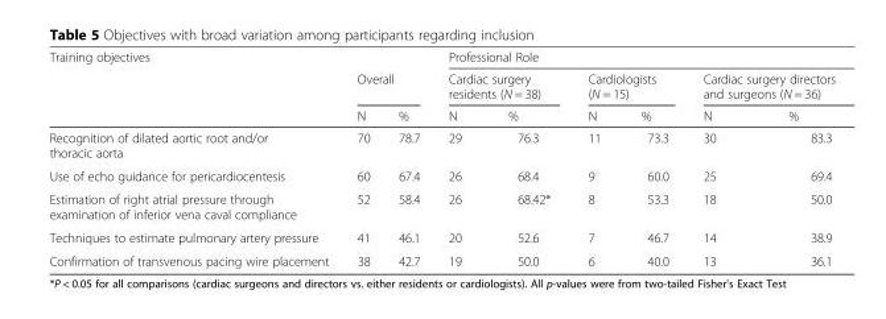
<table><thead><tr><td rowspan="3">Training objectives</td><td></td><td></td><td colspan="6">Professional Role</td></tr><tr><td colspan="2">Overall</td><td colspan="2">Cardiac surgery residents (N = 38)</td><td colspan="2">Cardiologists (N = 15)</td><td colspan="2">Cardiac surgery directors and surgeons (N = 36)</td></tr><tr><td>N</td><td>%</td><td>N</td><td>%</td><td>N</td><td>%</td><td>N</td><td>%</td></tr></thead><tbody><tr><td>Recognition of dilated aortic root and/or thoracic aorta</td><td>70</td><td>78.7</td><td>29</td><td>76.3</td><td>11</td><td>73.3</td><td>30</td><td>83.3</td></tr><tr><td>Use of echo guidance for pericardiocentesis</td><td>60</td><td>67.4</td><td>26</td><td>68.4</td><td>9</td><td>60.0</td><td>25</td><td>69.4</td></tr><tr><td>Estimation of right atrial pressure through examination of inferior vena caval compliance</td><td>52</td><td>58.4</td><td>26</td><td>68.42*</td><td>8</td><td>53.3</td><td>18</td><td>50.0</td></tr><tr><td>Techniques to estimate pulmonary artery pressure</td><td>41</td><td>46.1</td><td>20</td><td>52.6</td><td>7</td><td>46.7</td><td>14</td><td>38.9</td></tr><tr><td>Confirmation of transvenous pacing wire placement</td><td>38</td><td>42.7</td><td>19</td><td>50.0</td><td>6</td><td>40.0</td><td>13</td><td>36.1</td></tr></tbody></table>